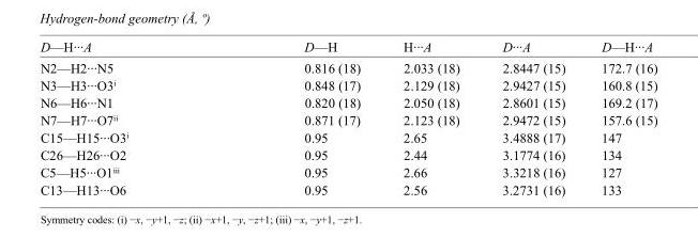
<table><tbody><tr><td>D—H···A</td><td>D—H</td><td>H···A</td><td>D···A</td><td>D—H···A</td></tr><tr><td>N2—H2···N5</td><td>0.816 (18)</td><td>2.033 (18)</td><td>2.8447 (15)</td><td>172.7 (16)</td></tr><tr><td>N3—H3···O3<sup>i</sup></td><td>0.848 (17)</td><td>2.129 (18)</td><td>2.9427 (15)</td><td>160.8 (15)</td></tr><tr><td>N6—H6···N1</td><td>0.820 (18)</td><td>2.050 (18)</td><td>2.8601 (15)</td><td>169.2 (17)</td></tr><tr><td>N7—H7···O7<sup>ii</sup></td><td>0.871 (17)</td><td>2.123 (18)</td><td>2.9472 (15)</td><td>157.6 (15)</td></tr><tr><td>C15—H15···O3<sup>i</sup></td><td>0.95</td><td>2.65</td><td>3.4888 (17)</td><td>147</td></tr><tr><td>C26—H26···O2</td><td>0.95</td><td>2.44</td><td>3.1774 (16)</td><td>134</td></tr><tr><td>C5—H5···O1<sup>iii</sup></td><td>0.95</td><td>2.66</td><td>3.3218 (16)</td><td>127</td></tr><tr><td>C13—H13···O6</td><td>0.95</td><td>2.56</td><td>3.2731 (16)</td><td>133</td></tr></tbody></table>